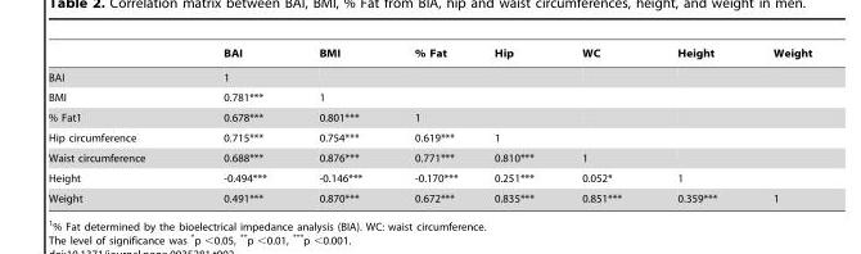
<table><thead><tr><td></td><td>BAI</td><td>BMI</td><td>% Fat</td><td>Hip</td><td>WC</td><td>Height</td><td>Weight</td></tr></thead><tbody><tr><td>BAI</td><td>1</td><td></td><td></td><td></td><td></td><td></td><td></td></tr><tr><td>BMI</td><td>0.781***</td><td>1</td><td></td><td></td><td></td><td></td><td></td></tr><tr><td>% Fat1</td><td>0.678***</td><td>0.801***</td><td>1</td><td></td><td></td><td></td><td></td></tr><tr><td>Hip circumference</td><td>0.715***</td><td>0.754***</td><td>0.619***</td><td>1</td><td></td><td></td><td></td></tr><tr><td>Waist circumference</td><td>0.688***</td><td>0.876***</td><td>0.771***</td><td>0.810***</td><td>1</td><td></td><td></td></tr><tr><td>Height</td><td>-0.494***</td><td>-0.146***</td><td>-0.170***</td><td>0.251***</td><td>0.052*</td><td>1</td><td></td></tr><tr><td>Weight</td><td>0.491***</td><td>0.870***</td><td>0.672***</td><td>0.835***</td><td>0.851***</td><td>0.359***</td><td>1</td></tr></tbody></table>